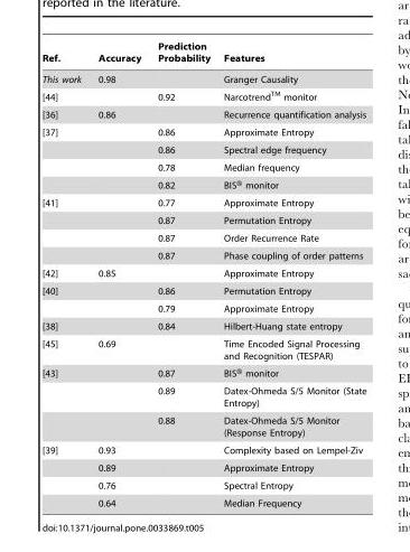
<table><thead><tr><td>Ref.</td><td>Accuracy</td><td>Prediction Probability</td><td>Features</td></tr></thead><tbody><tr><td>This work</td><td>0.98</td><td></td><td>Granger Causality</td></tr><tr><td>[44]</td><td></td><td>0.92</td><td>NarcotrendTM monitor</td></tr><tr><td>[36]</td><td>0.86</td><td></td><td>Recurrence quantification analysis</td></tr><tr><td rowspan="4">[37]</td><td></td><td>0.86</td><td>Approximate Entropy</td></tr><tr><td></td><td>0.86</td><td>Spectral edge frequency</td></tr><tr><td></td><td>0.78</td><td>Median frequency</td></tr><tr><td></td><td>0.82</td><td>BIS® monitor</td></tr><tr><td rowspan="4">[41]</td><td></td><td>0.77</td><td>Approximate Entropy</td></tr><tr><td></td><td>0.87</td><td>Permutation Entropy</td></tr><tr><td></td><td>0.87</td><td>Order Recurrence Rate</td></tr><tr><td></td><td>0.87</td><td>Phase coupling of order patterns</td></tr><tr><td>[42]</td><td>0.85</td><td></td><td>Approximate Entropy</td></tr><tr><td rowspan="2">[40]</td><td></td><td>0.86</td><td>Permutation Entropy</td></tr><tr><td></td><td>0.79</td><td>Approximate Entropy</td></tr><tr><td>[38]</td><td></td><td>0.84</td><td>Hilbert-Huang state entropy</td></tr><tr><td>[45]</td><td>0.69</td><td></td><td>Time Encoded Signal Processing and Recognition (TESPAR)</td></tr><tr><td rowspan="3">[43]</td><td></td><td>0.87</td><td>BIS® monitor</td></tr><tr><td></td><td>0.89</td><td>Datex-Ohmeda S/5 Monitor (State Entropy)</td></tr><tr><td></td><td>0.88</td><td>Datex-Ohmeda S/5 Monitor (Response Entropy)</td></tr><tr><td rowspan="4">[39]</td><td>0.93</td><td></td><td>Complexity based on Lempel-Ziv</td></tr><tr><td>0.89</td><td></td><td>Approximate Entropy</td></tr><tr><td>0.76</td><td></td><td>Spectral Entropy</td></tr><tr><td>0.64</td><td></td><td>Median Frequency</td></tr></tbody></table>